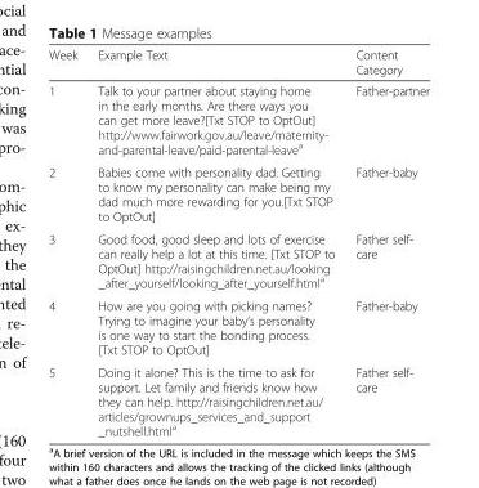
<table><thead><tr><td>Week</td><td>Example Text</td><td>Content Category</td></tr></thead><tbody><tr><td>1</td><td>Talk to your partner about staying home in the early months. Are there ways you can get more leave?[Txt STOP to OptOut] http://www.fairwork.gov.au/leave/maternity- and-parental-leave/paid-parental-leave<sup>a</sup></td><td>Father-partner</td></tr><tr><td>2</td><td>Babies come with personality dad. Getting to know my personality can make being my dad much more rewarding for you.[Txt STOP to OptOut]</td><td>Father-baby</td></tr><tr><td>3</td><td>Good food, good sleep and lots of exercise can really help a lot at this time. [Txt STOP to OptOut] http://raisingchildren.net.au/looking _after_yourself/looking_after_yourself.html<sup>a</sup></td><td>Father self- care</td></tr><tr><td>4</td><td>How are you going with picking names? Trying to imagine your baby’s personality is one way to start the bonding process. [Txt STOP to OptOut]</td><td>Father-baby</td></tr><tr><td>5</td><td>Doing it alone? This is the time to ask for support. Let family and friends know how they can help. http://raisingchildren.net.au/ articles/grownups_services_and_support _nutshell.html<sup>a</sup></td><td>Father self- care</td></tr></tbody></table>